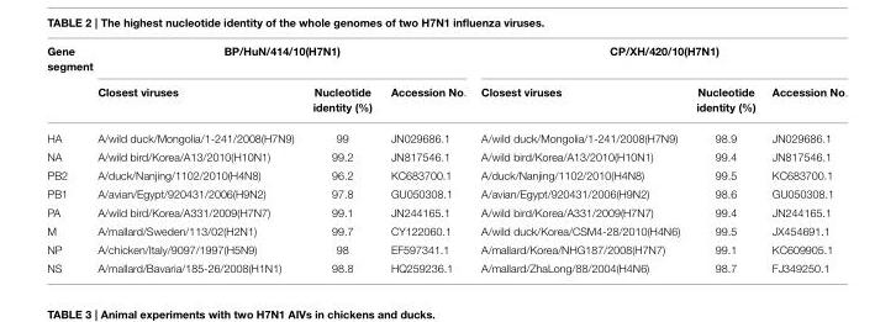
<table><thead><tr><td rowspan="2">Gene segment</td><td colspan="3">BP/HuN/414/10(H7N1)</td><td colspan="3">CP/XH/420/10(H7N1)</td></tr><tr><td>Closest viruses</td><td>Nucleotide identity (%)</td><td>Accession No.</td><td>Closest viruses</td><td>Nucleotide identity (%)</td><td>Accession No.</td></tr></thead><tbody><tr><td>HA</td><td>A/wild duck/Mongolia/1-241/2008(H7N9)</td><td>99</td><td>JN029686.1</td><td>A/wild duck/Mongolia/1-241/2008(H7N9)</td><td>98.9</td><td>JN029686.1</td></tr><tr><td>NA</td><td>A/wild bird/Korea/A13/2010(H10N1)</td><td>99.2</td><td>JN817546.1</td><td>A/wild bird/Korea/A13/2010(H10N1)</td><td>99.4</td><td>JN817546.1</td></tr><tr><td>PB2</td><td>A/duck/Nanjing/1102/2010(H4N8)</td><td>96.2</td><td>KC683700.1</td><td>A/duck/Nanjing/1102/2010(H4N8)</td><td>99.5</td><td>KC683700.1</td></tr><tr><td>PB1</td><td>A/avian/Egypt/920431/2006(H9N2)</td><td>97.8</td><td>GU050308.1</td><td>A/avian/Egypt/920431/2006(H9N2)</td><td>98.6</td><td>GU050308.1</td></tr><tr><td>PA</td><td>A/wild bird/Korea/A331/2009(H7N7)</td><td>99.1</td><td>JN244165.1</td><td>A/wild bird/Korea/A331/2009(H7N7)</td><td>99.4</td><td>JN244165.1</td></tr><tr><td>M</td><td>A/mallard/Sweden/113/02(H2N1)</td><td>99.7</td><td>CY122060.1</td><td>A/wild duck/Korea/CSM4-28/2010(H4N6)</td><td>99.5</td><td>JX454691.1</td></tr><tr><td>NP</td><td>A/chicken/Italy/9097/1997(H5N9)</td><td>98</td><td>EF597341.1</td><td>A/mallard/Korea/NHG187/2008(H7N7)</td><td>99.1</td><td>KC609905.1</td></tr><tr><td>NS</td><td>A/mallard/Bavaria/185-26/2008(H1N1)</td><td>98.8</td><td>HQ259236.1</td><td>A/mallard/ZhaLong/88/2004(H4N6)</td><td>98.7</td><td>FJ349250.1</td></tr></tbody></table>